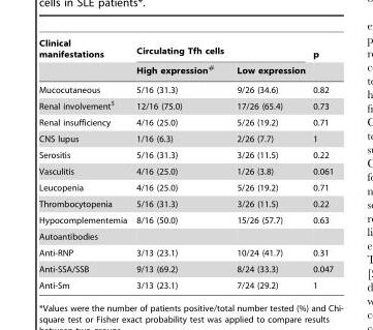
<table><thead><tr><td rowspan="2">Clinical manifestations</td><td colspan="2">Circulating Tfh cells</td><td rowspan="2">p</td></tr><tr><td>High expression#</td><td>Low expression</td></tr></thead><tbody><tr><td>Mucocutaneous</td><td>5/16 (31.3)</td><td>9/26 (34.6)</td><td>0.82</td></tr><tr><td>Renal involvement$</td><td>12/16 (75.0)</td><td>17/26 (65.4)</td><td>0.73</td></tr><tr><td>Renal insufficiency</td><td>4/16 (25.0)</td><td>5/26 (19.2)</td><td>0.71</td></tr><tr><td>CNS lupus</td><td>1/16 (6.3)</td><td>2/26 (7.7)</td><td>1</td></tr><tr><td>Serositis</td><td>5/16 (31.3)</td><td>3/26 (11.5)</td><td>0.22</td></tr><tr><td>Vasculitis</td><td>4/16 (25.0)</td><td>1/26 (3.8)</td><td>0.061</td></tr><tr><td>Leucopenia</td><td>4/16 (25.0)</td><td>5/26 (19.2)</td><td>0.71</td></tr><tr><td>Thrombocytopenia</td><td>5/16 (31.3)</td><td>3/26 (11.5)</td><td>0.22</td></tr><tr><td>Hypocomplementemia</td><td>8/16 (50.0)</td><td>15/26 (57.7)</td><td>0.63</td></tr><tr><td colspan="4">Autoantibodies</td></tr><tr><td>Anti-RNP</td><td>3/13 (23.1)</td><td>10/24 (41.7)</td><td>0.31</td></tr><tr><td>Anti-SSA/SSB</td><td>9/13 (69.2)</td><td>8/24 (33.3)</td><td>0.047</td></tr><tr><td>Anti-Sm</td><td>3/13 (23.1)</td><td>7/24 (29.2)</td><td>1</td></tr></tbody></table>